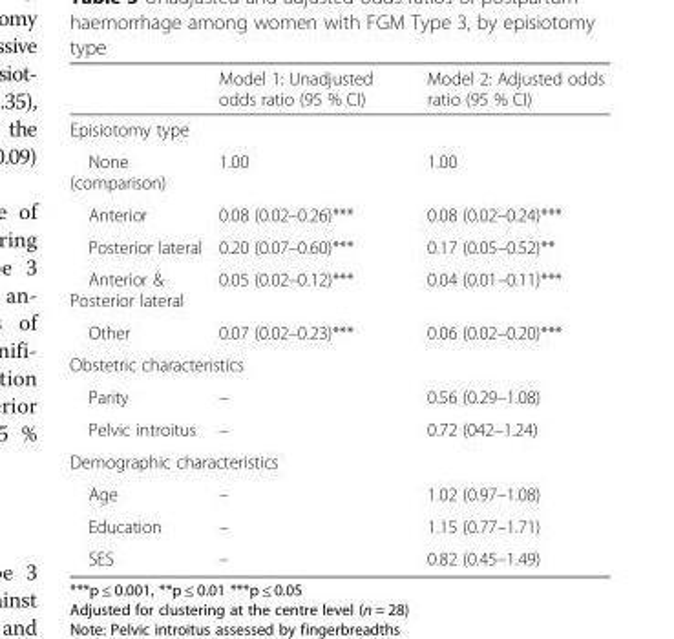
<table><thead><tr><td></td><td>Model 1: Unadjusted odds ratio (95 % CI)</td><td>Model 2: Adjusted odds ratio (95 % CI)</td></tr></thead><tbody><tr><td colspan="3">Episiotomy type</td></tr><tr><td>None (comparison)</td><td>1.00</td><td>1.00</td></tr><tr><td>Anterior</td><td>0.08 (0.02–0.26)***</td><td>0.08 (0.02–0.24)***</td></tr><tr><td>Posterior lateral</td><td>0.20 (0.07–0.60)***</td><td>0.17 (0.05–0.52)**</td></tr><tr><td>Anterior &amp; Posterior lateral</td><td>0.05 (0.02–0.12)***</td><td>0.04 (0.01–0.11)***</td></tr><tr><td>Other</td><td>0.07 (0.02–0.23)***</td><td>0.06 (0.02–0.20)***</td></tr><tr><td colspan="3">Obstetric characteristics</td></tr><tr><td>Parity</td><td>–</td><td>0.56 (0.29–1.08)</td></tr><tr><td>Pelvic introitus</td><td>–</td><td>0.72 (042–1.24)</td></tr><tr><td colspan="3">Demographic characteristics</td></tr><tr><td>Age</td><td>–</td><td>1.02 (0.97–1.08)</td></tr><tr><td>Education</td><td>–</td><td>1.15 (0.77–1.71)</td></tr><tr><td>SES</td><td>–</td><td>0.82 (0.45–1.49)</td></tr></tbody></table>